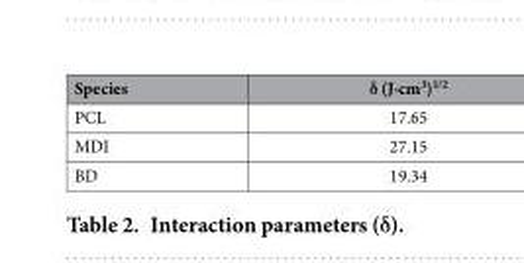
<table><thead><tr><td>Species</td><td>δ (J·cm<sup>3</sup>)<sup>1/2</sup></td></tr></thead><tbody><tr><td>PCL</td><td>17.65</td></tr><tr><td>MDI</td><td>27.15</td></tr><tr><td>BD</td><td>19.34</td></tr></tbody></table>